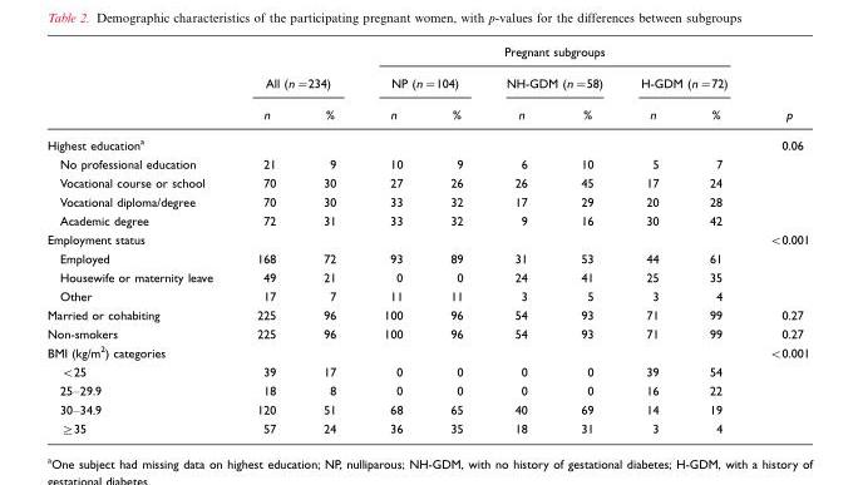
<table><thead><tr><td rowspan="3"></td><td></td><td></td><td colspan="6">Pregnant subgroups</td><td rowspan="3">p</td></tr><tr><td colspan="2">All (n=234)</td><td colspan="2">NP (n=104)</td><td colspan="2">NH-GDM (n=58)</td><td colspan="2">H-GDM (n=72)</td></tr><tr><td>n</td><td>%</td><td>n</td><td>%</td><td>n</td><td>%</td><td>n</td><td>%</td></tr></thead><tbody><tr><td>Highest education<sup>a</sup></td><td></td><td></td><td></td><td></td><td></td><td></td><td></td><td></td><td>0.06</td></tr><tr><td>No professional education</td><td>21</td><td>9</td><td>10</td><td>9</td><td>6</td><td>10</td><td>5</td><td>7</td><td></td></tr><tr><td>Vocational course or school</td><td>70</td><td>30</td><td>27</td><td>26</td><td>26</td><td>45</td><td>17</td><td>24</td><td></td></tr><tr><td>Vocational diploma/degree</td><td>70</td><td>30</td><td>33</td><td>32</td><td>17</td><td>29</td><td>20</td><td>28</td><td></td></tr><tr><td>Academic degree</td><td>72</td><td>31</td><td>33</td><td>32</td><td>9</td><td>16</td><td>30</td><td>42</td><td></td></tr><tr><td>Employment status</td><td></td><td></td><td></td><td></td><td></td><td></td><td></td><td></td><td>&lt;0.001</td></tr><tr><td>Employed</td><td>168</td><td>72</td><td>93</td><td>89</td><td>31</td><td>53</td><td>44</td><td>61</td><td></td></tr><tr><td>Housewife or maternity leave</td><td>49</td><td>21</td><td>0</td><td>0</td><td>24</td><td>41</td><td>25</td><td>35</td><td></td></tr><tr><td>Other</td><td>17</td><td>7</td><td>11</td><td>11</td><td>3</td><td>5</td><td>3</td><td>4</td><td></td></tr><tr><td>Married or cohabiting</td><td>225</td><td>96</td><td>100</td><td>96</td><td>54</td><td>93</td><td>71</td><td>99</td><td>0.27</td></tr><tr><td>Non-smokers</td><td>225</td><td>96</td><td>100</td><td>96</td><td>54</td><td>93</td><td>71</td><td>99</td><td>0.27</td></tr><tr><td>BMI (kg/m<sup>2</sup>) categories</td><td></td><td></td><td></td><td></td><td></td><td></td><td></td><td></td><td>&lt;0.001</td></tr><tr><td>&lt;25</td><td>39</td><td>17</td><td>0</td><td>0</td><td>0</td><td>0</td><td>39</td><td>54</td><td></td></tr><tr><td>25–29.9</td><td>18</td><td>8</td><td>0</td><td>0</td><td>0</td><td>0</td><td>16</td><td>22</td><td></td></tr><tr><td>30–34.9</td><td>120</td><td>51</td><td>68</td><td>65</td><td>40</td><td>69</td><td>14</td><td>19</td><td></td></tr><tr><td>≥35</td><td>57</td><td>24</td><td>36</td><td>35</td><td>18</td><td>31</td><td>3</td><td>4</td><td></td></tr></tbody></table>